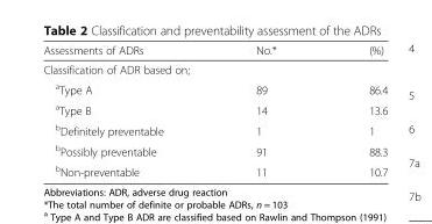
<table><thead><tr><td>Assessments of ADRs</td><td>No.*</td><td>(%)</td></tr></thead><tbody><tr><td colspan="3">Classification of ADR based on;</td></tr><tr><td><sup>a</sup>Type A</td><td>89</td><td>86.4</td></tr><tr><td><sup>a</sup>Type B</td><td>14</td><td>13.6</td></tr><tr><td><sup>b</sup>Definitely preventable</td><td>1</td><td>1</td></tr><tr><td><sup>b</sup>Possibly preventable</td><td>91</td><td>88.3</td></tr><tr><td><sup>b</sup>Non-preventable</td><td>11</td><td>10.7</td></tr></tbody></table>